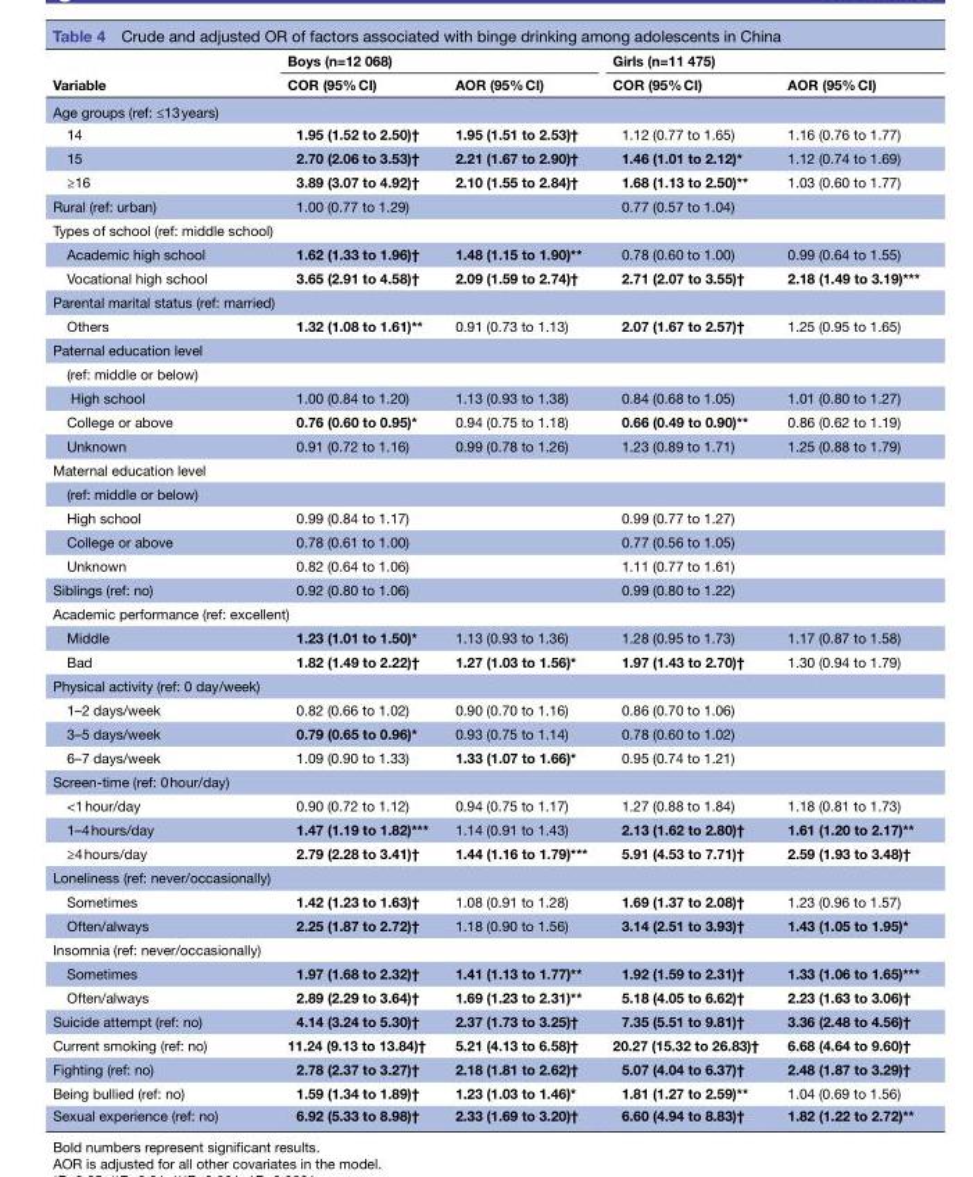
<table><thead><tr><td rowspan="2">Variable</td><td colspan="2">Boys (n=12 068)</td><td colspan="2">Girls (n=11 475)</td></tr><tr><td>COR (95% CI)</td><td>AOR (95% CI)</td><td>COR (95% CI)</td><td>AOR (95% CI)</td></tr></thead><tbody><tr><td colspan="5">Age groups (ref: ≤13 years)</td></tr><tr><td>14</td><td>1.95 (1.52 to 2.50)†</td><td>1.95 (1.51 to 2.53)†</td><td>1.12 (0.77 to 1.65)</td><td>1.16 (0.76 to 1.77)</td></tr><tr><td>15</td><td>2.70 (2.06 to 3.53)†</td><td>2.21 (1.67 to 2.90)†</td><td>1.46 (1.01 to 2.12)*</td><td>1.12 (0.74 to 1.69)</td></tr><tr><td>≥16</td><td>3.89 (3.07 to 4.92)†</td><td>2.10 (1.55 to 2.84)†</td><td>1.68 (1.13 to 2.50)**</td><td>1.03 (0.60 to 1.77)</td></tr><tr><td>Rural (ref: urban)</td><td>1.00 (0.77 to 1.29)</td><td></td><td>0.77 (0.57 to 1.04)</td><td></td></tr><tr><td colspan="5">Types of school (ref: middle school)</td></tr><tr><td>Academic high school</td><td>1.62 (1.33 to 1.96)†</td><td>1.48 (1.15 to 1.90)**</td><td>0.78 (0.60 to 1.00)</td><td>0.99 (0.64 to 1.55)</td></tr><tr><td>Vocational high school</td><td>3.65 (2.91 to 4.58)†</td><td>2.09 (1.59 to 2.74)†</td><td>2.71 (2.07 to 3.55)†</td><td>2.18 (1.49 to 3.19)***</td></tr><tr><td colspan="5">Parental marital status (ref: married)</td></tr><tr><td>Others</td><td>1.32 (1.08 to 1.61)**</td><td>0.91 (0.73 to 1.13)</td><td>2.07 (1.67 to 2.57)†</td><td>1.25 (0.95 to 1.65)</td></tr><tr><td colspan="5">Paternal education level</td></tr><tr><td colspan="5">(ref: middle or below)</td></tr><tr><td>High school</td><td>1.00 (0.84 to 1.20)</td><td>1.13 (0.93 to 1.38)</td><td>0.84 (0.68 to 1.05)</td><td>1.01 (0.80 to 1.27)</td></tr><tr><td>College or above</td><td>0.76 (0.60 to 0.95)*</td><td>0.94 (0.75 to 1.18)</td><td>0.66 (0.49 to 0.90)**</td><td>0.86 (0.62 to 1.19)</td></tr><tr><td>Unknown</td><td>0.91 (0.72 to 1.16)</td><td>0.99 (0.78 to 1.26)</td><td>1.23 (0.89 to 1.71)</td><td>1.25 (0.88 to 1.79)</td></tr><tr><td colspan="5">Maternal education level</td></tr><tr><td colspan="5">(ref: middle or below)</td></tr><tr><td>High school</td><td>0.99 (0.84 to 1.17)</td><td></td><td>0.99 (0.77 to 1.27)</td><td></td></tr><tr><td>College or above</td><td>0.78 (0.61 to 1.00)</td><td></td><td>0.77 (0.56 to 1.05)</td><td></td></tr><tr><td>Unknown</td><td>0.82 (0.64 to 1.06)</td><td></td><td>1.11 (0.77 to 1.61)</td><td></td></tr><tr><td>Siblings (ref: no)</td><td>0.92 (0.80 to 1.06)</td><td></td><td>0.99 (0.80 to 1.22)</td><td></td></tr><tr><td colspan="5">Academic performance (ref: excellent)</td></tr><tr><td>Middle</td><td>1.23 (1.01 to 1.50)*</td><td>1.13 (0.93 to 1.36)</td><td>1.28 (0.95 to 1.73)</td><td>1.17 (0.87 to 1.58)</td></tr><tr><td>Bad</td><td>1.82 (1.49 to 2.22)†</td><td>1.27 (1.03 to 1.56)*</td><td>1.97 (1.43 to 2.70)†</td><td>1.30 (0.94 to 1.79)</td></tr><tr><td colspan="5">Physical activity (ref: 0 day/week)</td></tr><tr><td>1–2 days/week</td><td>0.82 (0.66 to 1.02)</td><td>0.90 (0.70 to 1.16)</td><td>0.86 (0.70 to 1.06)</td><td></td></tr><tr><td>3–5 days/week</td><td>0.79 (0.65 to 0.96)*</td><td>0.93 (0.75 to 1.14)</td><td>0.78 (0.60 to 1.02)</td><td></td></tr><tr><td>6–7 days/week</td><td>1.09 (0.90 to 1.33)</td><td>1.33 (1.07 to 1.66)*</td><td>0.95 (0.74 to 1.21)</td><td></td></tr><tr><td colspan="5">Screen-time (ref: 0 hour/day)</td></tr><tr><td>&lt;1 hour/day</td><td>0.90 (0.72 to 1.12)</td><td>0.94 (0.75 to 1.17)</td><td>1.27 (0.88 to 1.84)</td><td>1.18 (0.81 to 1.73)</td></tr><tr><td>1–4 hours/day</td><td>1.47 (1.19 to 1.82)***</td><td>1.14 (0.91 to 1.43)</td><td>2.13 (1.62 to 2.80)†</td><td>1.61 (1.20 to 2.17)**</td></tr><tr><td>≥4 hours/day</td><td>2.79 (2.28 to 3.41)†</td><td>1.44 (1.16 to 1.79)***</td><td>5.91 (4.53 to 7.71)†</td><td>2.59 (1.93 to 3.48)†</td></tr><tr><td colspan="5">Loneliness (ref: never/occasionally)</td></tr><tr><td>Sometimes</td><td>1.42 (1.23 to 1.63)†</td><td>1.08 (0.91 to 1.28)</td><td>1.69 (1.37 to 2.08)†</td><td>1.23 (0.96 to 1.57)</td></tr><tr><td>Often/always</td><td>2.25 (1.87 to 2.72)†</td><td>1.18 (0.90 to 1.56)</td><td>3.14 (2.51 to 3.93)†</td><td>1.43 (1.05 to 1.95)*</td></tr><tr><td colspan="5">Insomnia (ref: never/occasionally)</td></tr><tr><td>Sometimes</td><td>1.97 (1.68 to 2.32)†</td><td>1.41 (1.13 to 1.77)**</td><td>1.92 (1.59 to 2.31)†</td><td>1.33 (1.06 to 1.65)***</td></tr><tr><td>Often/always</td><td>2.89 (2.29 to 3.64)†</td><td>1.69 (1.23 to 2.31)**</td><td>5.18 (4.05 to 6.62)†</td><td>2.23 (1.63 to 3.06)†</td></tr><tr><td>Suicide attempt (ref: no)</td><td>4.14 (3.24 to 5.30)†</td><td>2.37 (1.73 to 3.25)†</td><td>7.35 (5.51 to 9.81)†</td><td>3.36 (2.48 to 4.56)†</td></tr><tr><td>Current smoking (ref: no)</td><td>11.24 (9.13 to 13.84)†</td><td>5.21 (4.13 to 6.58)†</td><td>20.27 (15.32 to 26.83)†</td><td>6.68 (4.64 to 9.60)†</td></tr><tr><td>Fighting (ref: no)</td><td>2.78 (2.37 to 3.27)†</td><td>2.18 (1.81 to 2.62)†</td><td>5.07 (4.04 to 6.37)†</td><td>2.48 (1.87 to 3.29)†</td></tr><tr><td>Being bullied (ref: no)</td><td>1.59 (1.34 to 1.89)†</td><td>1.23 (1.03 to 1.46)*</td><td>1.81 (1.27 to 2.59)**</td><td>1.04 (0.69 to 1.56)</td></tr><tr><td>Sexual experience (ref: no)</td><td>6.92 (5.33 to 8.98)†</td><td>2.33 (1.69 to 3.20)†</td><td>6.60 (4.94 to 8.83)†</td><td>1.82 (1.22 to 2.72)**</td></tr></tbody></table>